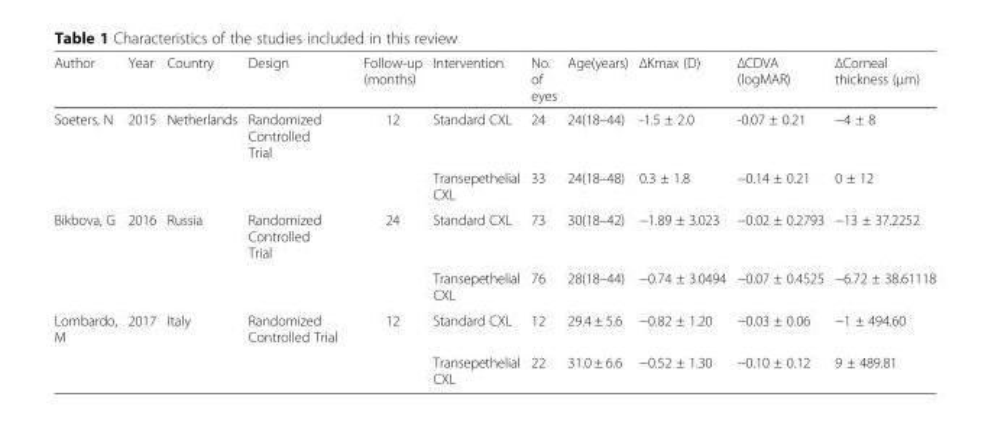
<table><thead><tr><td>Author</td><td>Year</td><td>Country</td><td>Design</td><td>Follow-up (months)</td><td>Intervention</td><td>No. of eyes</td><td>Age(years)</td><td>ΔKmax (D)</td><td>ΔCDVA (logMAR)</td><td>ΔCorneal thickness (μm)</td></tr></thead><tbody><tr><td rowspan="2">Soeters, N</td><td>2015</td><td>Netherlands</td><td>Randomized Controlled Trial</td><td>12</td><td>Standard CXL</td><td>24</td><td>24(18–44)</td><td>-1.5 ± 2.0</td><td>-0.07 ± 0.21</td><td>−4 ± 8</td></tr><tr><td></td><td></td><td></td><td></td><td>Transepethelial CXL</td><td>33</td><td>24(18–48)</td><td>0.3 ± 1.8</td><td>−0.14 ± 0.21</td><td>0 ± 12</td></tr><tr><td rowspan="2">Bikbova, G</td><td>2016</td><td>Russia</td><td>Randomized Controlled Trial</td><td>24</td><td>Standard CXL</td><td>73</td><td>30(18–42)</td><td>−1.89 ± 3.023</td><td>−0.02 ± 0.2793</td><td>−13 ± 37.2252</td></tr><tr><td></td><td></td><td></td><td></td><td>Transepethelial CXL</td><td>76</td><td>28(18–44)</td><td>−0.74 ± 3.0494</td><td>−0.07 ± 0.4525</td><td>−6.72 ± 38.61118</td></tr><tr><td rowspan="2">Lombardo, M</td><td>2017</td><td>Italy</td><td>Randomized Controlled Trial</td><td>12</td><td>Standard CXL</td><td>12</td><td>29.4 ± 5.6</td><td>−0.82 ± 1.20</td><td>−0.03 ± 0.06</td><td>−1 ± 494.60</td></tr><tr><td></td><td></td><td></td><td></td><td>Transepethelial CXL</td><td>22</td><td>31.0 ± 6.6</td><td>−0.52 ± 1.30</td><td>−0.10 ± 0.12</td><td>9 ± 489.81</td></tr></tbody></table>